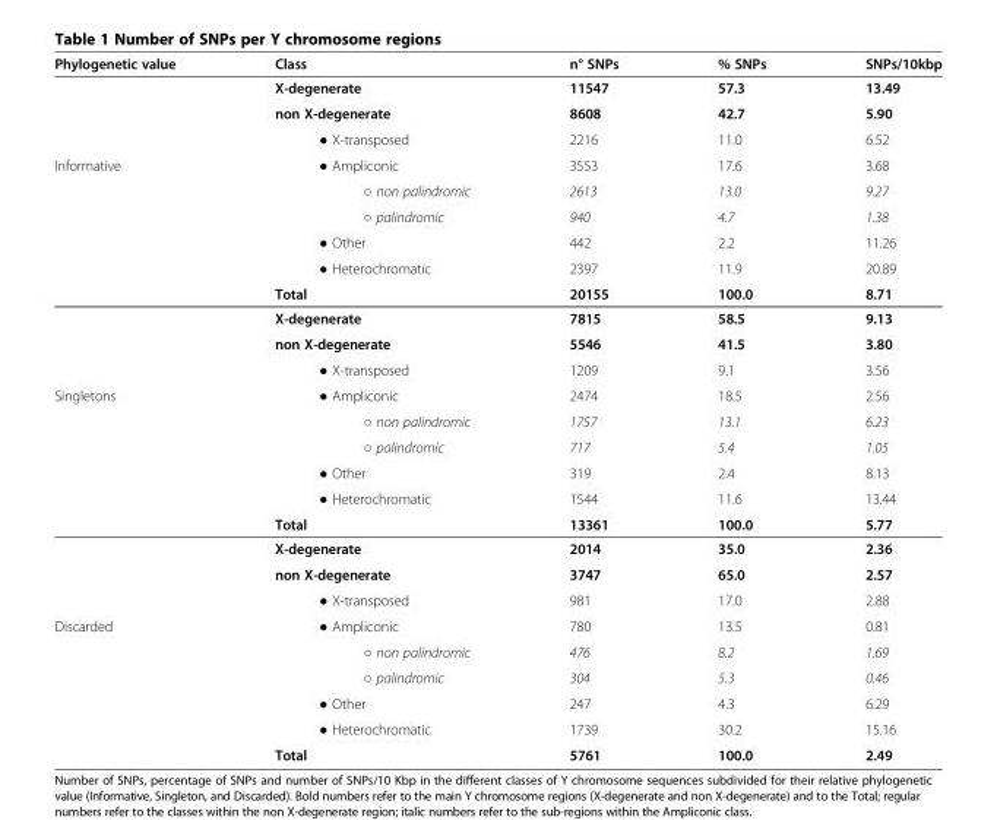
<table><thead><tr><td>Phylogenetic value</td><td>Class</td><td>n° SNPs</td><td>% SNPs</td><td>SNPs/10kbp</td></tr></thead><tbody><tr><td></td><td>X-degenerate</td><td>11547</td><td>57.3</td><td>13.49</td></tr><tr><td></td><td>non X-degenerate</td><td>8608</td><td>42.7</td><td>5.90</td></tr><tr><td></td><td>● X-transposed</td><td>2216</td><td>11.0</td><td>6.52</td></tr><tr><td rowspan="9">Informative</td><td>● Ampliconic</td><td>3553</td><td>17.6</td><td>3.68</td></tr><tr><td>○ non palindromic</td><td>2613</td><td>13.0</td><td>9.27</td></tr><tr><td>○ palindromic</td><td>940</td><td>4.7</td><td>1.38</td></tr><tr><td>● Other</td><td>442</td><td>2.2</td><td>11.26</td></tr><tr><td>● Heterochromatic</td><td>2397</td><td>11.9</td><td>20.89</td></tr><tr><td>Total</td><td>20155</td><td>100.0</td><td>8.71</td></tr><tr><td>X-degenerate</td><td>7815</td><td>58.5</td><td>9.13</td></tr><tr><td>non X-degenerate</td><td>5546</td><td>41.5</td><td>3.80</td></tr><tr><td>● X-transposed</td><td>1209</td><td>9.1</td><td>3.56</td></tr><tr><td rowspan="9">Singletons</td><td>● Ampliconic</td><td>2474</td><td>18.5</td><td>2.56</td></tr><tr><td>○ non palindromic</td><td>1757</td><td>13.1</td><td>6.23</td></tr><tr><td>○ palindromic</td><td>717</td><td>5.4</td><td>1.05</td></tr><tr><td>● Other</td><td>319</td><td>2.4</td><td>8.13</td></tr><tr><td>● Heterochromatic</td><td>1544</td><td>11.6</td><td>13.44</td></tr><tr><td>Total</td><td>13361</td><td>100.0</td><td>5.77</td></tr><tr><td>X-degenerate</td><td>2014</td><td>35.0</td><td>2.36</td></tr><tr><td>non X-degenerate</td><td>3747</td><td>65.0</td><td>2.57</td></tr><tr><td>● X-transposed</td><td>981</td><td>17.0</td><td>2.88</td></tr><tr><td rowspan="6">Discarded</td><td>● Ampliconic</td><td>780</td><td>13.5</td><td>0.81</td></tr><tr><td>○ non palindromic</td><td>476</td><td>8.2</td><td>1.69</td></tr><tr><td>○ palindromic</td><td>304</td><td>5.3</td><td>0.46</td></tr><tr><td>● Other</td><td>247</td><td>4.3</td><td>6.29</td></tr><tr><td>● Heterochromatic</td><td>1739</td><td>30.2</td><td>15.16</td></tr><tr><td>Total</td><td>5761</td><td>100.0</td><td>2.49</td></tr></tbody></table>